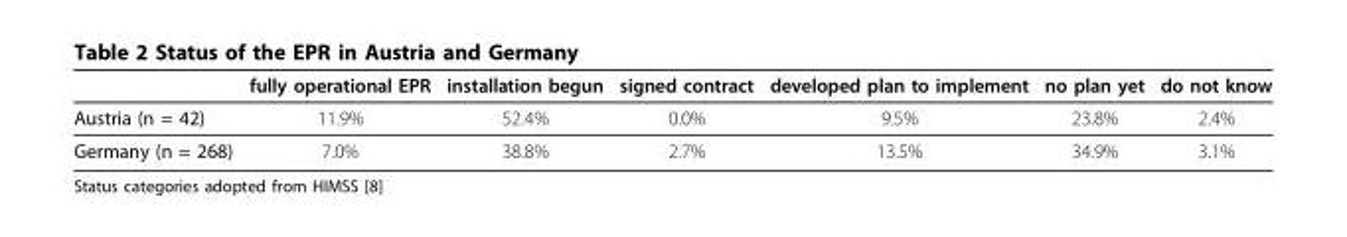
<table><thead><tr><td></td><td>fully operational EPR</td><td>installation begun</td><td>signed contract</td><td>developed plan to implement</td><td>no plan yet</td><td>do not know</td></tr></thead><tbody><tr><td>Austria (n = 42)</td><td>11.9%</td><td>52.4%</td><td>0.0%</td><td>9.5%</td><td>23.8%</td><td>2.4%</td></tr><tr><td>Germany (n = 268)</td><td>7.0%</td><td>38.8%</td><td>2.7%</td><td>13.5%</td><td>34.9%</td><td>3.1%</td></tr></tbody></table>